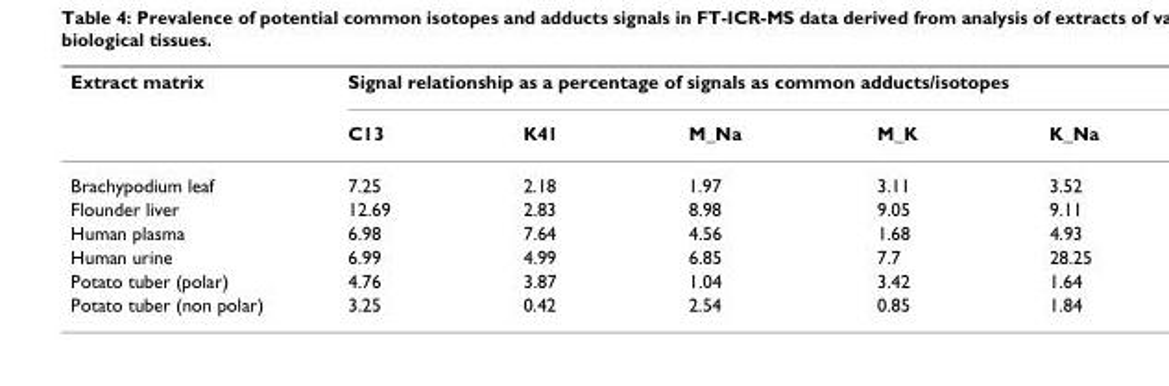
<table><thead><tr><td rowspan="2">Extract matrix</td><td colspan="5">Signal relationship as a percentage of signals as common adducts/isotopes</td></tr><tr><td>C13</td><td>K41</td><td>M_Na</td><td>M_K</td><td>K_Na</td></tr></thead><tbody><tr><td>Brachypodium leaf</td><td>7.25</td><td>2.18</td><td>1.97</td><td>3.11</td><td>3.52</td></tr><tr><td>Flounder liver</td><td>12.69</td><td>2.83</td><td>8.98</td><td>9.05</td><td>9.11</td></tr><tr><td>Human plasma</td><td>6.98</td><td>7.64</td><td>4.56</td><td>1.68</td><td>4.93</td></tr><tr><td>Human urine</td><td>6.99</td><td>4.99</td><td>6.85</td><td>7.7</td><td>28.25</td></tr><tr><td>Potato tuber (polar)</td><td>4.76</td><td>3.87</td><td>1.04</td><td>3.42</td><td>1.64</td></tr><tr><td>Potato tuber (non polar)</td><td>3.25</td><td>0.42</td><td>2.54</td><td>0.85</td><td>1.84</td></tr></tbody></table>